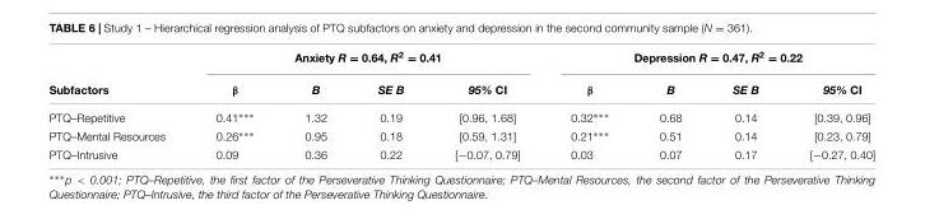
<table><thead><tr><td rowspan="2">Subfactors</td><td colspan="4">Anxiety R = 0.64, R<sup>2</sup> = 0.41</td><td colspan="4">Depression R = 0.47, R<sup>2</sup> = 0.22</td></tr><tr><td>β</td><td>B</td><td>SE B</td><td>95% CI</td><td>β</td><td>B</td><td>SE B</td><td>95% CI</td></tr></thead><tbody><tr><td>PTQ–Repetitive</td><td>0.41∗∗∗</td><td>1.32</td><td>0.19</td><td>[0.96, 1.68]</td><td>0.32∗∗∗</td><td>0.68</td><td>0.14</td><td>[0.39, 0.96]</td></tr><tr><td>PTQ–Mental Resources</td><td>0.26∗∗∗</td><td>0.95</td><td>0.18</td><td>[0.59, 1.31]</td><td>0.21∗∗∗</td><td>0.51</td><td>0.14</td><td>[0.23, 0.79]</td></tr><tr><td>PTQ–Intrusive</td><td>0.09</td><td>0.36</td><td>0.22</td><td>[−0.07, 0.79]</td><td>0.03</td><td>0.07</td><td>0.17</td><td>[−0.27, 0.40]</td></tr></tbody></table>